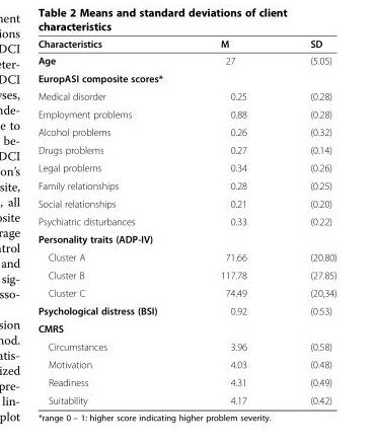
<table><thead><tr><td>Characteristics</td><td>M</td><td>SD</td></tr></thead><tbody><tr><td>Age</td><td>27</td><td>(5.05)</td></tr><tr><td colspan="3">EuropASI composite scores*</td></tr><tr><td>Medical disorder</td><td>0.25</td><td>(0.28)</td></tr><tr><td>Employment problems</td><td>0.88</td><td>(0.28)</td></tr><tr><td>Alcohol problems</td><td>0.26</td><td>(0.32)</td></tr><tr><td>Drugs problems</td><td>0.27</td><td>(0.14)</td></tr><tr><td>Legal problems</td><td>0.34</td><td>(0.26)</td></tr><tr><td>Family relationships</td><td>0.28</td><td>(0.25)</td></tr><tr><td>Social relationships</td><td>0.21</td><td>(0.20)</td></tr><tr><td>Psychiatric disturbances</td><td>0.33</td><td>(0.22)</td></tr><tr><td colspan="3">Personality traits (ADP-IV)</td></tr><tr><td>Cluster A</td><td>71.66</td><td>(20.80)</td></tr><tr><td>Cluster B</td><td>117.78</td><td>(27.85)</td></tr><tr><td>Cluster C</td><td>74.49</td><td>(20,34)</td></tr><tr><td>Psychological distress (BSI)</td><td>0.92</td><td>(0.53)</td></tr><tr><td colspan="3">CMRS</td></tr><tr><td>Circumstances</td><td>3.96</td><td>(0.58)</td></tr><tr><td>Motivation</td><td>4.03</td><td>(0.48)</td></tr><tr><td>Readiness</td><td>4.31</td><td>(0.49)</td></tr><tr><td>Suitability</td><td>4.17</td><td>(0.42)</td></tr></tbody></table>